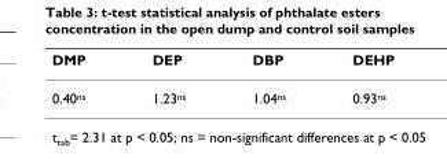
<table><thead><tr><td>DMP</td><td>DEP</td><td>DBP</td><td>DEHP</td></tr></thead><tbody><tr><td>0.40<sup>ns</sup></td><td>1.23<sup>ns</sup></td><td>1.04<sup>ns</sup></td><td>0.93<sup>ns</sup></td></tr></tbody></table>